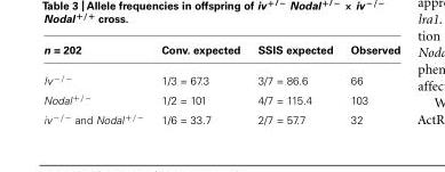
<table><thead><tr><td>n = 202</td><td>Conv. expected</td><td>SSIS expected</td><td>Observed</td></tr></thead><tbody><tr><td>Iv −/−</td><td>1/3 = 67.3</td><td>3/7 = 86.6</td><td>66</td></tr><tr><td>Nodal<sup>+/−</sup></td><td>1/2 = 101</td><td>4/7 = 115.4</td><td>103</td></tr><tr><td>iv −/− and Nodal+/−</td><td>1/6 = 33.7</td><td>2/7 = 57.7</td><td>32</td></tr></tbody></table>